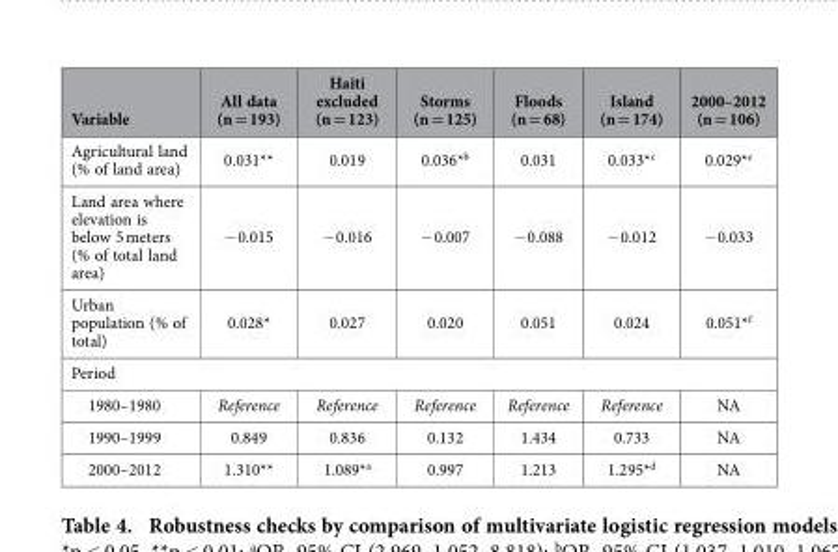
<table><thead><tr><td>Variable</td><td>All data (n = 193)</td><td>Haiti excluded (n = 123)</td><td>Storms (n = 125)</td><td>Floods (n = 68)</td><td>Island (n = 174)</td><td>2000–2012 (n = 106)</td></tr></thead><tbody><tr><td>Agricultural land (% of land area)</td><td>0.031**</td><td>0.019</td><td>0.036*<sup>b</sup></td><td>0.031</td><td>0.033*<sup>c</sup></td><td>0.029*<sup>e</sup></td></tr><tr><td>Land area where elevation is below 5 meters (% of total land area)</td><td>− 0.015</td><td>− 0.016</td><td>− 0.007</td><td>− 0.088</td><td>− 0.012</td><td>− 0.033</td></tr><tr><td>Urban population (% of total)</td><td>0.028*</td><td>0.027</td><td>0.020</td><td>0.051</td><td>0.024</td><td>0.051*<sup>f</sup></td></tr><tr><td colspan="7">Period</td></tr><tr><td>1980–1980</td><td>Reference</td><td>Reference</td><td>Reference</td><td>Reference</td><td>Reference</td><td>NA</td></tr><tr><td>1990–1999</td><td>0.849</td><td>0.836</td><td>0.132</td><td>1.434</td><td>0.733</td><td>NA</td></tr><tr><td>2000–2012</td><td>1.310**</td><td>1.089*<sup>a</sup></td><td>0.997</td><td>1.213</td><td>1.295*<sup>d</sup></td><td>NA</td></tr></tbody></table>